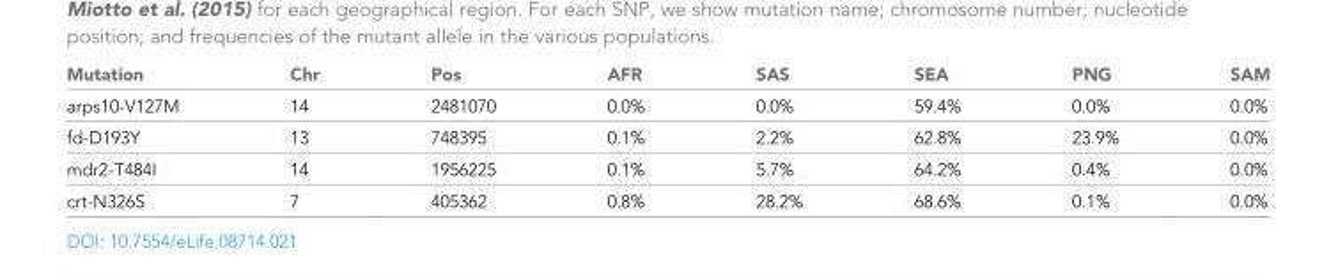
<table><thead><tr><td>Mutation</td><td>Chr</td><td>Pos</td><td>AFR</td><td>SAS</td><td>SEA</td><td>PNG</td><td>SAM</td></tr></thead><tbody><tr><td>arps10-V127M</td><td>14</td><td>2481070</td><td>0.0%</td><td>0.0%</td><td>59.4%</td><td>0.0%</td><td>0.0%</td></tr><tr><td>fd-D193Y</td><td>13</td><td>748395</td><td>0.1%</td><td>2.2%</td><td>62.8%</td><td>23.9%</td><td>0.0%</td></tr><tr><td>mdr2-T484I</td><td>14</td><td>1956225</td><td>0.1%</td><td>5.7%</td><td>64.2%</td><td>0.4%</td><td>0.0%</td></tr><tr><td>crt-N326S</td><td>7</td><td>405362</td><td>0.8%</td><td>28.2%</td><td>68.6%</td><td>0.1%</td><td>0.0%</td></tr></tbody></table>